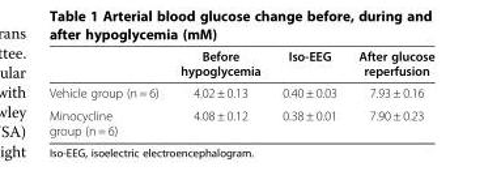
<table><thead><tr><td></td><td>Before hypoglycemia</td><td>Iso-EEG</td><td>After glucose reperfusion</td></tr></thead><tbody><tr><td>Vehicle group (n = 6)</td><td>4.02 ± 0.13</td><td>0.40 ± 0.03</td><td>7.93 ± 0.16</td></tr><tr><td>Minocycline group (n = 6)</td><td>4.08 ± 0.12</td><td>0.38 ± 0.01</td><td>7.90 ± 0.23</td></tr></tbody></table>